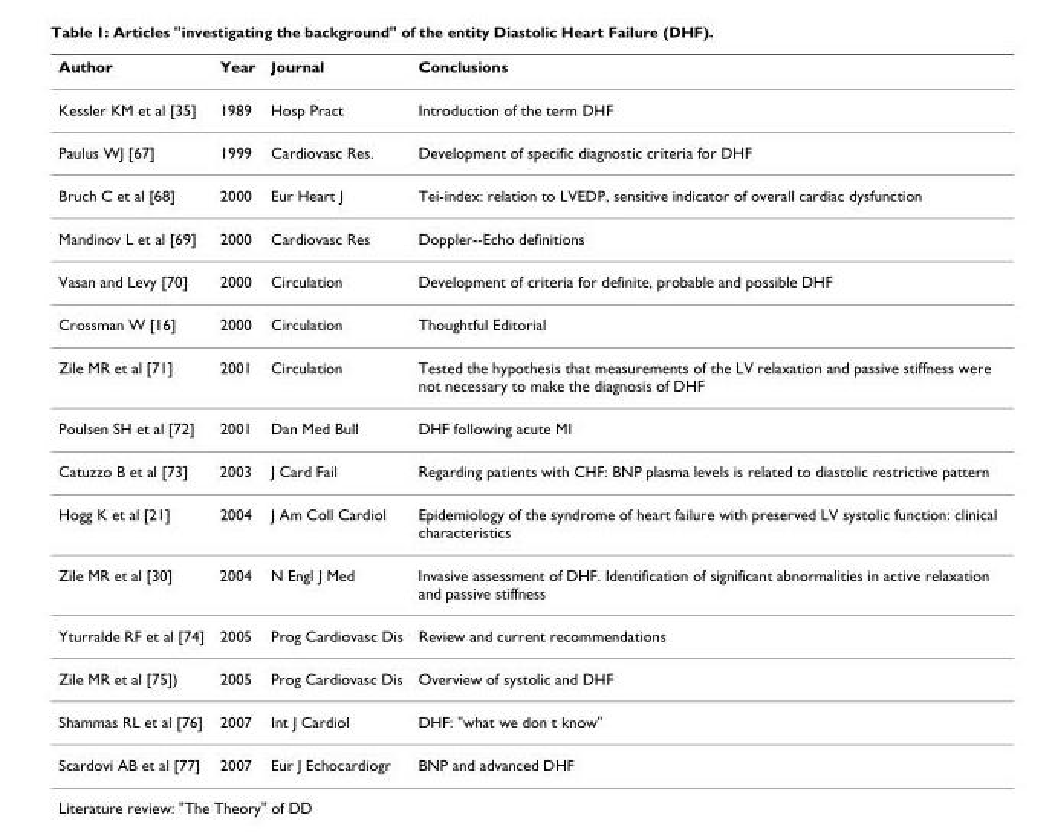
<table><thead><tr><td>Author</td><td>Year</td><td>Journal</td><td>Conclusions</td></tr></thead><tbody><tr><td>Kessler KM et al [35]</td><td>1989</td><td>Hosp Pract</td><td>Introduction of the term DHF</td></tr><tr><td>Paulus WJ [67]</td><td>1999</td><td>Cardiovasc Res.</td><td>Development of specific diagnostic criteria for DHF</td></tr><tr><td>Bruch C et al [68]</td><td>2000</td><td>Eur Heart J</td><td>Tei-index: relation to LVEDP, sensitive indicator of overall cardiac dysfunction</td></tr><tr><td>Mandinov L et al [69]</td><td>2000</td><td>Cardiovasc Res</td><td>Doppler--Echo definitions</td></tr><tr><td>Vasan and Levy [70]</td><td>2000</td><td>Circulation</td><td>Development of criteria for definite, probable and possible DHF</td></tr><tr><td>Crossman W [16]</td><td>2000</td><td>Circulation</td><td>Thoughtful Editorial</td></tr><tr><td>Zile MR et al [71]</td><td>2001</td><td>Circulation</td><td>Tested the hypothesis that measurements of the LV relaxation and passive stiffness were not necessary to make the diagnosis of DHF</td></tr><tr><td>Poulsen SH et al [72]</td><td>2001</td><td>Dan Med Bull</td><td>DHF following acute MI</td></tr><tr><td>Catuzzo B et al [73]</td><td>2003</td><td>J Card Fail</td><td>Regarding patients with CHF: BNP plasma levels is related to diastolic restrictive pattern</td></tr><tr><td>Hogg K et al [21]</td><td>2004</td><td>J Am Coll Cardiol</td><td>Epidemiology of the syndrome of heart failure with preserved LV systolic function: clinical characteristics</td></tr><tr><td>Zile MR et al [30]</td><td>2004</td><td>N Engl J Med</td><td>Invasive assessment of DHF. Identification of significant abnormalities in active relaxation and passive stiffness</td></tr><tr><td>Yturralde RF et al [74]</td><td>2005</td><td>Prog Cardiovasc Dis</td><td>Review and current recommendations</td></tr><tr><td>Zile MR et al [75])</td><td>2005</td><td>Prog Cardiovasc Dis</td><td>Overview of systolic and DHF</td></tr><tr><td>Shammas RL et al [76]</td><td>2007</td><td>Int J Cardiol</td><td>DHF: &quot;what we don t know&quot;</td></tr><tr><td>Scardovi AB et al [77]</td><td>2007</td><td>Eur J Echocardiogr</td><td>BNP and advanced DHF</td></tr></tbody></table>